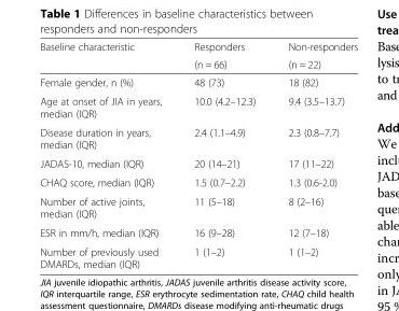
<table><thead><tr><td rowspan="2">Baseline characteristic</td><td rowspan="2">Responders (n = 66)</td><td rowspan="2">Non-responders (n = 22)</td></tr><tr></tr></thead><tbody><tr><td>Female gender, n (%)</td><td>48 (73)</td><td>18 (82)</td></tr><tr><td>Age at onset of JIA in years, median (IQR)</td><td>10.0 (4.2–12.3)</td><td>9.4 (3.5–13.7)</td></tr><tr><td>Disease duration in years, median (IQR)</td><td>2.4 (1.1–4.9)</td><td>2.3 (0.8–7.7)</td></tr><tr><td>JADAS-10, median (IQR)</td><td>20 (14–21)</td><td>17 (11–22)</td></tr><tr><td>CHAQ score, median (IQR)</td><td>1.5 (0.7–2.2)</td><td>1.3 (0.6-2.0)</td></tr><tr><td>Number of active joints, median (IQR)</td><td>11 (5–18)</td><td>8 (2–16)</td></tr><tr><td>ESR in mm/h, median (IQR)</td><td>16 (9–28)</td><td>12 (7–18)</td></tr><tr><td>Number of previously used DMARDs, median (IQR)</td><td>1 (1–2)</td><td>1 (1–2)</td></tr></tbody></table>